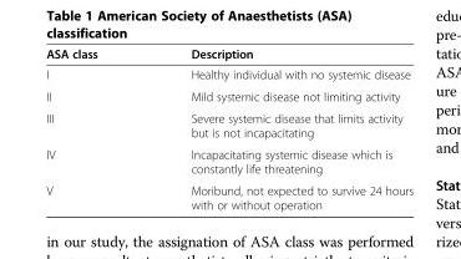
<table><thead><tr><td>ASA class</td><td>Description</td></tr></thead><tbody><tr><td>I</td><td>Healthy individual with no systemic disease</td></tr><tr><td>II</td><td>Mild systemic disease not limiting activity</td></tr><tr><td>III</td><td>Severe systemic disease that limits activity but is not incapacitating</td></tr><tr><td>IV</td><td>Incapacitating systemic disease which is constantly life threatening</td></tr><tr><td>V</td><td>Moribund, not expected to survive 24 hours with or without operation</td></tr></tbody></table>